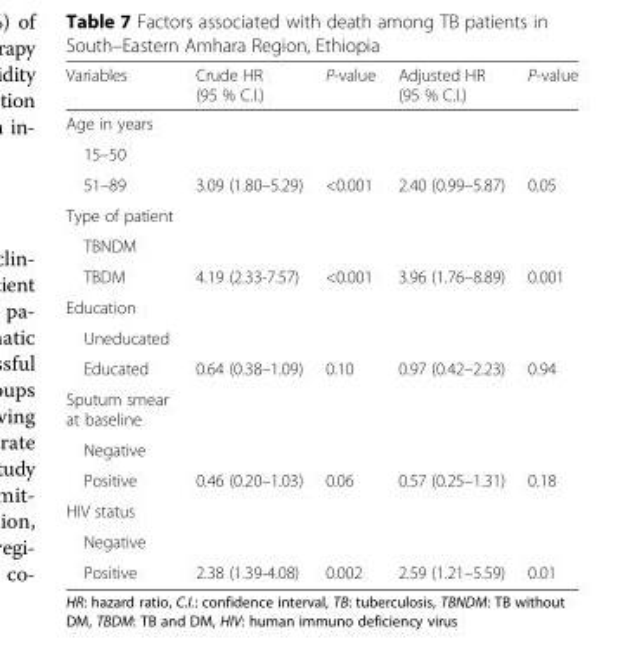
<table><thead><tr><td>Variables</td><td>Crude HR (95 % C.I.)</td><td>P-value</td><td>Adjusted HR (95 % C.I.)</td><td>P-value</td></tr></thead><tbody><tr><td colspan="5">Age in years</td></tr><tr><td colspan="5">15–50</td></tr><tr><td>51–89</td><td>3.09 (1.80–5.29)</td><td>&lt;0.001</td><td>2.40 (0.99–5.87)</td><td>0.05</td></tr><tr><td colspan="5">Type of patient</td></tr><tr><td colspan="5">TBNDM</td></tr><tr><td>TBDM</td><td>4.19 (2.33-7.57)</td><td>&lt;0.001</td><td>3.96 (1.76–8.89)</td><td>0.001</td></tr><tr><td colspan="5">Education</td></tr><tr><td colspan="5">Uneducated</td></tr><tr><td>Educated</td><td>0.64 (0.38–1.09)</td><td>0.10</td><td>0.97 (0.42–2.23)</td><td>0.94</td></tr><tr><td colspan="5">Sputum smear at baseline</td></tr><tr><td colspan="5">Negative</td></tr><tr><td>Positive</td><td>0.46 (0.20–1.03)</td><td>0.06</td><td>0.57 (0.25–1.31)</td><td>0.18</td></tr><tr><td colspan="5">HIV status</td></tr><tr><td colspan="5">Negative</td></tr><tr><td>Positive</td><td>2.38 (1.39-4.08)</td><td>0.002</td><td>2.59 (1.21–5.59)</td><td>0.01</td></tr></tbody></table>